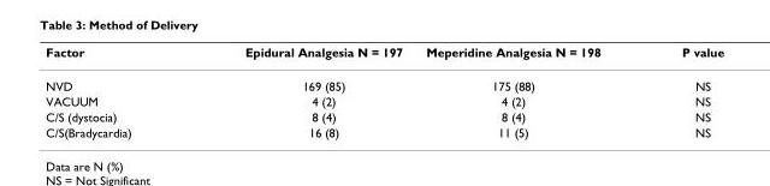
<table><thead><tr><td>Factor</td><td>Epidural Analgesia N = 197</td><td>Meperidine Analgesia N = 198</td><td>P value</td></tr></thead><tbody><tr><td>NVD</td><td>169 (85)</td><td>175 (88)</td><td>NS</td></tr><tr><td>VACUUM</td><td>4 (2)</td><td>4 (2)</td><td>NS</td></tr><tr><td>C/S (dystocia)</td><td>8 (4)</td><td>8 (4)</td><td>NS</td></tr><tr><td>C/S(Bradycardia)</td><td>16 (8)</td><td>11 (5)</td><td>NS</td></tr></tbody></table>